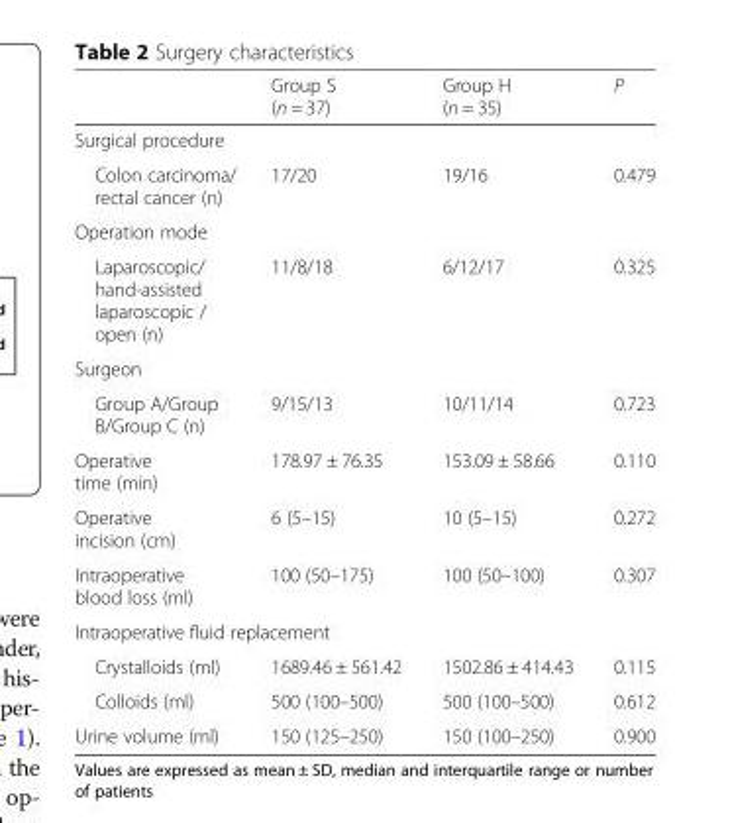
<table><thead><tr><td></td><td>Group S (n = 37)</td><td>Group H (n = 35)</td><td>P</td></tr></thead><tbody><tr><td colspan="4">Surgical procedure</td></tr><tr><td>Colon carcinoma/ rectal cancer (n)</td><td>17/20</td><td>19/16</td><td>0.479</td></tr><tr><td colspan="4">Operation mode</td></tr><tr><td>Laparoscopic/ hand-assisted laparoscopic / open (n)</td><td>11/8/18</td><td>6/12/17</td><td>0.325</td></tr><tr><td colspan="4">Surgeon</td></tr><tr><td>Group A/Group B/Group C (n)</td><td>9/15/13</td><td>10/11/14</td><td>0.723</td></tr><tr><td>Operative time (min)</td><td>178.97 ± 76.35</td><td>153.09 ± 58.66</td><td>0.110</td></tr><tr><td>Operative incision (cm)</td><td>6 (5–15)</td><td>10 (5–15)</td><td>0.272</td></tr><tr><td>Intraoperative blood loss (ml)</td><td>100 (50–175)</td><td>100 (50–100)</td><td>0.307</td></tr><tr><td colspan="4">Intraoperative fluid replacement</td></tr><tr><td>Crystalloids (ml)</td><td>1689.46 ± 561.42</td><td>1502.86 ± 414.43</td><td>0.115</td></tr><tr><td>Colloids (ml)</td><td>500 (100–500)</td><td>500 (100–500)</td><td>0.612</td></tr><tr><td>Urine volume (ml)</td><td>150 (125–250)</td><td>150 (100–250)</td><td>0.900</td></tr></tbody></table>